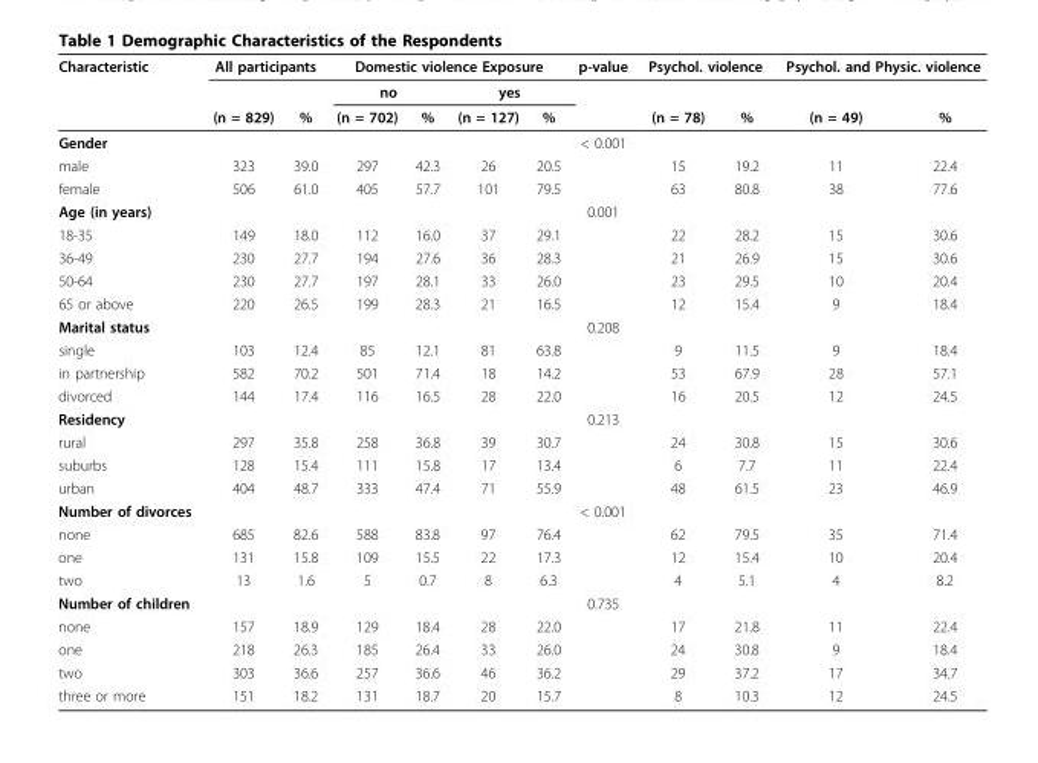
<table><thead><tr><td rowspan="3">Characteristic</td><td colspan="2">All participants</td><td colspan="4">Domestic violence Exposure</td><td rowspan="3">p-value</td><td colspan="2">Psychol. violence</td><td colspan="2">Psychol. and Physic. violence</td></tr><tr><td rowspan="2">(n = 829)</td><td rowspan="2">%</td><td colspan="2">no</td><td colspan="2">yes</td><td rowspan="2">(n = 78)</td><td rowspan="2">%</td><td rowspan="2">(n = 49)</td><td rowspan="2">%</td></tr><tr><td>(n = 702)</td><td>%</td><td>(n = 127)</td><td>%</td></tr></thead><tbody><tr><td>Gender</td><td></td><td></td><td></td><td></td><td></td><td></td><td>&lt; 0.001</td><td></td><td></td><td></td><td></td></tr><tr><td>male</td><td>323</td><td>39.0</td><td>297</td><td>42.3</td><td>26</td><td>20.5</td><td></td><td>15</td><td>19.2</td><td>11</td><td>22.4</td></tr><tr><td>female</td><td>506</td><td>61.0</td><td>405</td><td>57.7</td><td>101</td><td>79.5</td><td></td><td>63</td><td>80.8</td><td>38</td><td>77.6</td></tr><tr><td>Age (in years)</td><td></td><td></td><td></td><td></td><td></td><td></td><td>0.001</td><td></td><td></td><td></td><td></td></tr><tr><td>18-35</td><td>149</td><td>18.0</td><td>112</td><td>16.0</td><td>37</td><td>29.1</td><td></td><td>22</td><td>28.2</td><td>15</td><td>30.6</td></tr><tr><td>36-49</td><td>230</td><td>27.7</td><td>194</td><td>27.6</td><td>36</td><td>28.3</td><td></td><td>21</td><td>26.9</td><td>15</td><td>30.6</td></tr><tr><td>50-64</td><td>230</td><td>27.7</td><td>197</td><td>28.1</td><td>33</td><td>26.0</td><td></td><td>23</td><td>29.5</td><td>10</td><td>20.4</td></tr><tr><td>65 or above</td><td>220</td><td>26.5</td><td>199</td><td>28.3</td><td>21</td><td>16.5</td><td></td><td>12</td><td>15.4</td><td>9</td><td>18.4</td></tr><tr><td>Marital status</td><td></td><td></td><td></td><td></td><td></td><td></td><td>0.208</td><td></td><td></td><td></td><td></td></tr><tr><td>single</td><td>103</td><td>12.4</td><td>85</td><td>12.1</td><td>81</td><td>63.8</td><td></td><td>9</td><td>11.5</td><td>9</td><td>18.4</td></tr><tr><td>in partnership</td><td>582</td><td>70.2</td><td>501</td><td>71.4</td><td>18</td><td>14.2</td><td></td><td>53</td><td>67.9</td><td>28</td><td>57.1</td></tr><tr><td>divorced</td><td>144</td><td>17.4</td><td>116</td><td>16.5</td><td>28</td><td>22.0</td><td></td><td>16</td><td>20.5</td><td>12</td><td>24.5</td></tr><tr><td>Residency</td><td></td><td></td><td></td><td></td><td></td><td></td><td>0.213</td><td></td><td></td><td></td><td></td></tr><tr><td>rural</td><td>297</td><td>35.8</td><td>258</td><td>36.8</td><td>39</td><td>30.7</td><td></td><td>24</td><td>30.8</td><td>15</td><td>30.6</td></tr><tr><td>suburbs</td><td>128</td><td>15.4</td><td>111</td><td>15.8</td><td>17</td><td>13.4</td><td></td><td>6</td><td>7.7</td><td>11</td><td>22.4</td></tr><tr><td>urban</td><td>404</td><td>48.7</td><td>333</td><td>47.4</td><td>71</td><td>55.9</td><td></td><td>48</td><td>61.5</td><td>23</td><td>46.9</td></tr><tr><td>Number of divorces</td><td></td><td></td><td></td><td></td><td></td><td></td><td>&lt; 0.001</td><td></td><td></td><td></td><td></td></tr><tr><td>none</td><td>685</td><td>82.6</td><td>588</td><td>83.8</td><td>97</td><td>76.4</td><td></td><td>62</td><td>79.5</td><td>35</td><td>71.4</td></tr><tr><td>one</td><td>131</td><td>15.8</td><td>109</td><td>15.5</td><td>22</td><td>17.3</td><td></td><td>12</td><td>15.4</td><td>10</td><td>20.4</td></tr><tr><td>two</td><td>13</td><td>1.6</td><td>5</td><td>0.7</td><td>8</td><td>6.3</td><td></td><td>4</td><td>5.1</td><td>4</td><td>8.2</td></tr><tr><td>Number of children</td><td></td><td></td><td></td><td></td><td></td><td></td><td>0.735</td><td></td><td></td><td></td><td></td></tr><tr><td>none</td><td>157</td><td>18.9</td><td>129</td><td>18.4</td><td>28</td><td>22.0</td><td></td><td>17</td><td>21.8</td><td>11</td><td>22.4</td></tr><tr><td>one</td><td>218</td><td>26.3</td><td>185</td><td>26.4</td><td>33</td><td>26.0</td><td></td><td>24</td><td>30.8</td><td>9</td><td>18.4</td></tr><tr><td>two</td><td>303</td><td>36.6</td><td>257</td><td>36.6</td><td>46</td><td>36.2</td><td></td><td>29</td><td>37.2</td><td>17</td><td>34.7</td></tr><tr><td>three or more</td><td>151</td><td>18.2</td><td>131</td><td>18.7</td><td>20</td><td>15.7</td><td></td><td>8</td><td>10.3</td><td>12</td><td>24.5</td></tr></tbody></table>